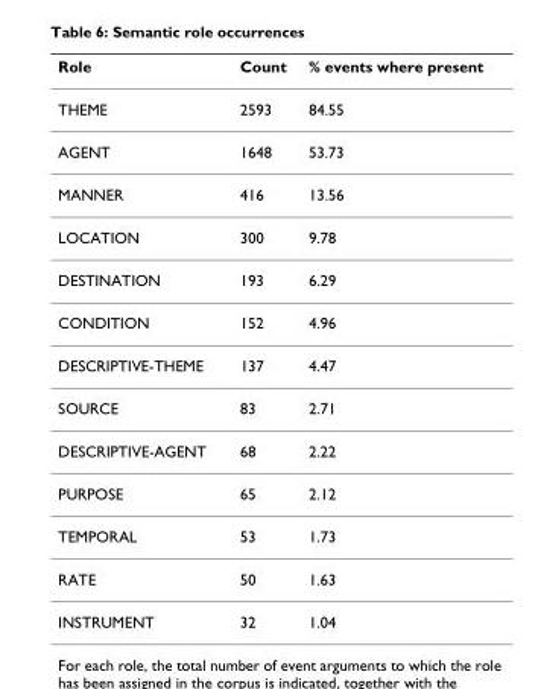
<table><thead><tr><td>Role</td><td>Count</td><td>% events where present</td></tr></thead><tbody><tr><td>THEME</td><td>2593</td><td>84.55</td></tr><tr><td>AGENT</td><td>1648</td><td>53.73</td></tr><tr><td>MANNER</td><td>416</td><td>13.56</td></tr><tr><td>LOCATION</td><td>300</td><td>9.78</td></tr><tr><td>DESTINATION</td><td>193</td><td>6.29</td></tr><tr><td>CONDITION</td><td>152</td><td>4.96</td></tr><tr><td>DESCRIPTIVE-THEME</td><td>137</td><td>4.47</td></tr><tr><td>SOURCE</td><td>83</td><td>2.71</td></tr><tr><td>DESCRIPTIVE-AGENT</td><td>68</td><td>2.22</td></tr><tr><td>PURPOSE</td><td>65</td><td>2.12</td></tr><tr><td>TEMPORAL</td><td>53</td><td>1.73</td></tr><tr><td>RATE</td><td>50</td><td>1.63</td></tr><tr><td>INSTRUMENT</td><td>32</td><td>1.04</td></tr></tbody></table>